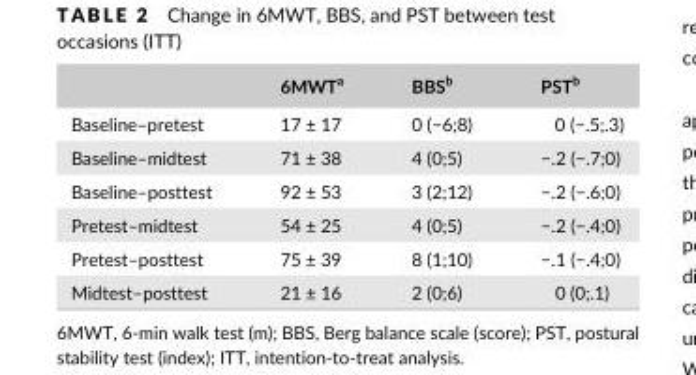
<table><thead><tr><td></td><td>6MWT<sup>a</sup></td><td>BBS<sup>b</sup></td><td>PST<sup>b</sup></td></tr></thead><tbody><tr><td>Baseline–pretest</td><td>17 ± 17</td><td>0 (−6;8)</td><td>0 (−.5;.3)</td></tr><tr><td>Baseline–midtest</td><td>71 ± 38</td><td>4 (0;5)</td><td>−.2 (−.7;0)</td></tr><tr><td>Baseline–posttest</td><td>92 ± 53</td><td>3 (2;12)</td><td>−.2 (−.6;0)</td></tr><tr><td>Pretest–midtest</td><td>54 ± 25</td><td>4 (0;5)</td><td>−.2 (−.4;0)</td></tr><tr><td>Pretest–posttest</td><td>75 ± 39</td><td>8 (1;10)</td><td>−.1 (−.4;0)</td></tr><tr><td>Midtest–posttest</td><td>21 ± 16</td><td>2 (0;6)</td><td>0 (0;.1)</td></tr></tbody></table>